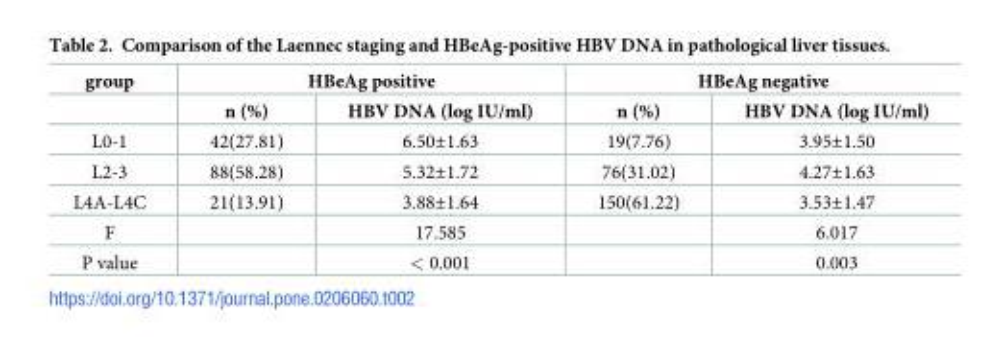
<table><thead><tr><td rowspan="2">group</td><td colspan="2">HBeAg positive</td><td colspan="2">HBeAg negative</td></tr><tr><td>n (%)</td><td>HBV DNA (log IU/ml)</td><td>n (%)</td><td>HBV DNA (log IU/ml)</td></tr></thead><tbody><tr><td>L0-1</td><td>42(27.81)</td><td>6.50±1.63</td><td>19(7.76)</td><td>3.95±1.50</td></tr><tr><td>L2-3</td><td>88(58.28)</td><td>5.32±1.72</td><td>76(31.02)</td><td>4.27±1.63</td></tr><tr><td>L4A-L4C</td><td>21(13.91)</td><td>3.88±1.64</td><td>150(61.22)</td><td>3.53±1.47</td></tr><tr><td>F</td><td></td><td>17.585</td><td></td><td>6.017</td></tr><tr><td>P value</td><td></td><td>&lt; 0.001</td><td></td><td>0.003</td></tr></tbody></table>